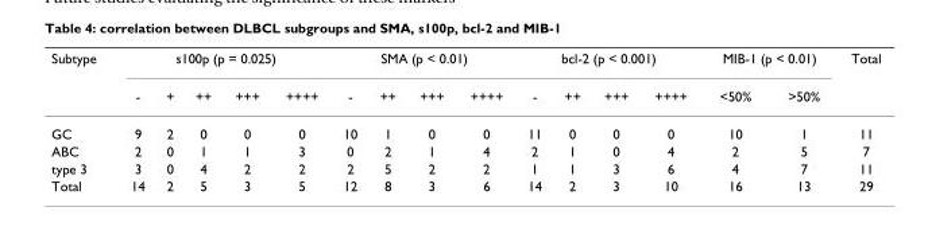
<table><thead><tr><td rowspan="2">Subtype</td><td colspan="5">s100p (p = 0.025)</td><td colspan="4">SMA (p &lt; 0.01)</td><td colspan="4">bcl-2 (p &lt; 0.001)</td><td colspan="2">MIB-1 (p &lt; 0.01)</td><td rowspan="2">Total</td></tr><tr><td>-</td><td>+</td><td>++</td><td>+++</td><td>++++</td><td>-</td><td>++</td><td>+++</td><td>++++</td><td>-</td><td>++</td><td>+++</td><td>++++</td><td>&lt;50%</td><td>&gt;50%</td></tr></thead><tbody><tr><td>GC</td><td>9</td><td>2</td><td>0</td><td>0</td><td>0</td><td>10</td><td>1</td><td>0</td><td>0</td><td>11</td><td>0</td><td>0</td><td>0</td><td>10</td><td>1</td><td>11</td></tr><tr><td>ABC</td><td>2</td><td>0</td><td>1</td><td>1</td><td>3</td><td>0</td><td>2</td><td>1</td><td>4</td><td>2</td><td>1</td><td>0</td><td>4</td><td>2</td><td>5</td><td>7</td></tr><tr><td>type 3</td><td>3</td><td>0</td><td>4</td><td>2</td><td>2</td><td>2</td><td>5</td><td>2</td><td>2</td><td>1</td><td>1</td><td>3</td><td>6</td><td>4</td><td>7</td><td>11</td></tr><tr><td>Total</td><td>14</td><td>2</td><td>5</td><td>3</td><td>5</td><td>12</td><td>8</td><td>3</td><td>6</td><td>14</td><td>2</td><td>3</td><td>10</td><td>16</td><td>13</td><td>29</td></tr></tbody></table>